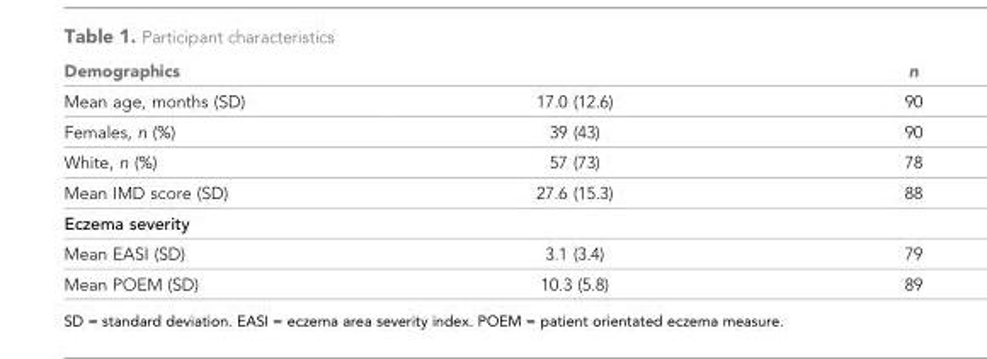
<table><thead><tr><td>Demographics</td><td></td><td>n</td></tr></thead><tbody><tr><td>Mean age, months (SD)</td><td>17.0 (12.6)</td><td>90</td></tr><tr><td>Females, n (%)</td><td>39 (43)</td><td>90</td></tr><tr><td>White, n (%)</td><td>57 (73)</td><td>78</td></tr><tr><td>Mean IMD score (SD)</td><td>27.6 (15.3)</td><td>88</td></tr><tr><td colspan="3">Eczema severity</td></tr><tr><td>Mean EASI (SD)</td><td>3.1 (3.4)</td><td>79</td></tr><tr><td>Mean POEM (SD)</td><td>10.3 (5.8)</td><td>89</td></tr></tbody></table>